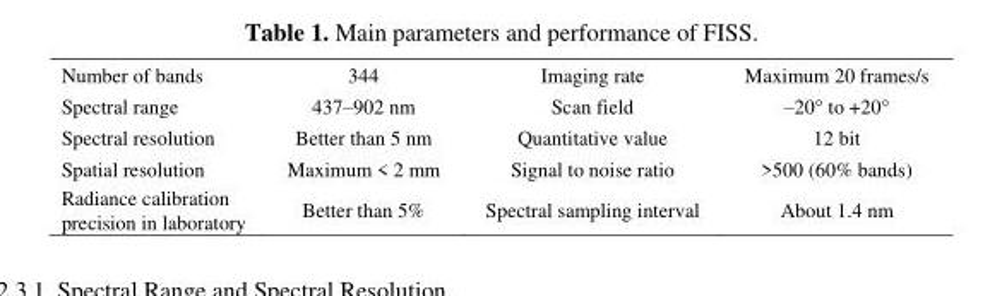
<table><tbody><tr><td>Number of bands</td><td>344</td><td>Imaging rate</td><td>Maximum 20 frames/s</td></tr><tr><td>Spectral range</td><td>437–902 nm</td><td>Scan field</td><td>–20° to +20°</td></tr><tr><td>Spectral resolution</td><td>Better than 5 nm</td><td>Quantitative value</td><td>12 bit</td></tr><tr><td>Spatial resolution</td><td>Maximum &lt; 2 mm</td><td>Signal to noise ratio</td><td>&gt;500 (60% bands)</td></tr><tr><td>Radiance calibration precision in laboratory</td><td>Better than 5%</td><td>Spectral sampling interval</td><td>About 1.4 nm</td></tr></tbody></table>